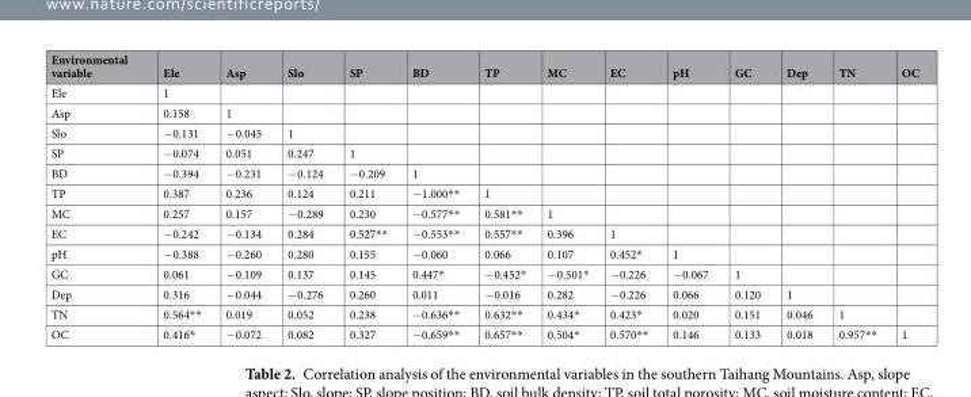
<table><thead><tr><td>Environmental variable</td><td>Ele</td><td>Asp</td><td>Slo</td><td>SP</td><td>BD</td><td>TP</td><td>MC</td><td>EC</td><td>pH</td><td>GC</td><td>Dep</td><td>TN</td><td>OC</td></tr></thead><tbody><tr><td>Ele</td><td>1</td><td></td><td></td><td></td><td></td><td></td><td></td><td></td><td></td><td></td><td></td><td></td><td></td></tr><tr><td>Asp</td><td>0.158</td><td>1</td><td></td><td></td><td></td><td></td><td></td><td></td><td></td><td></td><td></td><td></td><td></td></tr><tr><td>Slo</td><td>−0.131</td><td>−0.045</td><td>1</td><td></td><td></td><td></td><td></td><td></td><td></td><td></td><td></td><td></td><td></td></tr><tr><td>SP</td><td>−0.074</td><td>0.051</td><td>0.247</td><td>1</td><td></td><td></td><td></td><td></td><td></td><td></td><td></td><td></td><td></td></tr><tr><td>BD</td><td>−0.394</td><td>−0.231</td><td>−0.124</td><td>−0.209</td><td>1</td><td></td><td></td><td></td><td></td><td></td><td></td><td></td><td></td></tr><tr><td>TP</td><td>0.387</td><td>0.236</td><td>0.124</td><td>0.211</td><td>−1.000**</td><td>1</td><td></td><td></td><td></td><td></td><td></td><td></td><td></td></tr><tr><td>MC</td><td>0.257</td><td>0.157</td><td>−0.289</td><td>0.230</td><td>−0.577**</td><td>0.581**</td><td>1</td><td></td><td></td><td></td><td></td><td></td><td></td></tr><tr><td>EC</td><td>−0.242</td><td>−0.134</td><td>0.284</td><td>0.527**</td><td>−0.553**</td><td>0.557**</td><td>0.396</td><td>1</td><td></td><td></td><td></td><td></td><td></td></tr><tr><td>pH</td><td>−0.388</td><td>−0.260</td><td>0.280</td><td>0.155</td><td>−0.060</td><td>0.066</td><td>0.107</td><td>0.452*</td><td>1</td><td></td><td></td><td></td><td></td></tr><tr><td>GC</td><td>0.061</td><td>−0.109</td><td>0.137</td><td>0.145</td><td>0.447*</td><td>−0.452*</td><td>−0.501*</td><td>−0.226</td><td>−0.067</td><td>1</td><td></td><td></td><td></td></tr><tr><td>Dep</td><td>0.316</td><td>−0.044</td><td>−0.276</td><td>0.260</td><td>0.011</td><td>−0.016</td><td>0.282</td><td>−0.226</td><td>0.066</td><td>0.120</td><td>1</td><td></td><td></td></tr><tr><td>TN</td><td>0.564**</td><td>0.019</td><td>0.052</td><td>0.238</td><td>−0.636**</td><td>0.632**</td><td>0.434*</td><td>0.423*</td><td>0.020</td><td>0.151</td><td>0.046</td><td>1</td><td></td></tr><tr><td>OC</td><td>0.416*</td><td>−0.072</td><td>0.082</td><td>0.327</td><td>−0.659**</td><td>0.657**</td><td>0.504*</td><td>0.570**</td><td>0.146</td><td>0.133</td><td>0.018</td><td>0.957**</td><td>1</td></tr></tbody></table>